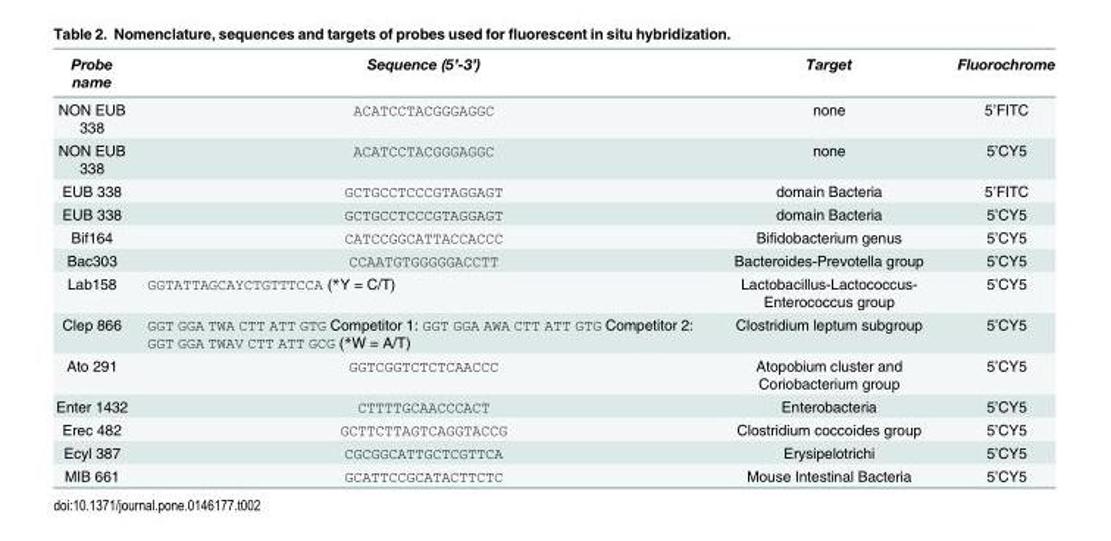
<table><thead><tr><td>Probe name</td><td>Sequence (5’-3’)</td><td>Target</td><td>Fluorochrome</td></tr></thead><tbody><tr><td>NON EUB 338</td><td>ACATCCTACGGGAGGC</td><td>none</td><td>5’FITC</td></tr><tr><td>NON EUB 338</td><td>ACATCCTACGGGAGGC</td><td>none</td><td>5’CY5</td></tr><tr><td>EUB 338</td><td>GCTGCCTCCCGTAGGAGT</td><td>domain Bacteria</td><td>5’FITC</td></tr><tr><td>EUB 338</td><td>GCTGCCTCCCGTAGGAGT</td><td>domain Bacteria</td><td>5’CY5</td></tr><tr><td>Bif164</td><td>CATCCGGCATTACCACCC</td><td>Bifidobacterium genus</td><td>5’CY5</td></tr><tr><td>Bac303</td><td>CCAATGTGGGGGACCTT</td><td>Bacteroides-Prevotella group</td><td>5’CY5</td></tr><tr><td>Lab158</td><td>GGTATTAGCAYCTGTTTCCA (*Y = C/T)</td><td>Lactobacillus-Lactococcus- Enterococcus group</td><td>5’CY5</td></tr><tr><td>Clep 866</td><td>GGT GGA TWA CTT ATT GTG Competitor 1: GGT GGA AWA CTT ATT GTG Competitor 2: GGT GGA TWAV CTT ATT GCG (*W = A/T)</td><td>Clostridium leptum subgroup</td><td>5’CY5</td></tr><tr><td>Ato 291</td><td>GGTCGGTCTCTCAACCC</td><td>Atopobium cluster and Coriobacterium group</td><td>5’CY5</td></tr><tr><td>Enter 1432</td><td>CTTTTGCAACCCACT</td><td>Enterobacteria</td><td>5’CY5</td></tr><tr><td>Erec 482</td><td>GCTTCTTAGTCAGGTACCG</td><td>Clostridium coccoides group</td><td>5’CY5</td></tr><tr><td>Ecyl 387</td><td>CGCGGCATTGCTCGTTCA</td><td>Erysipelotrichi</td><td>5’CY5</td></tr><tr><td>MIB 661</td><td>GCATTCCGCATACTTCTC</td><td>Mouse Intestinal Bacteria</td><td>5’CY5</td></tr></tbody></table>